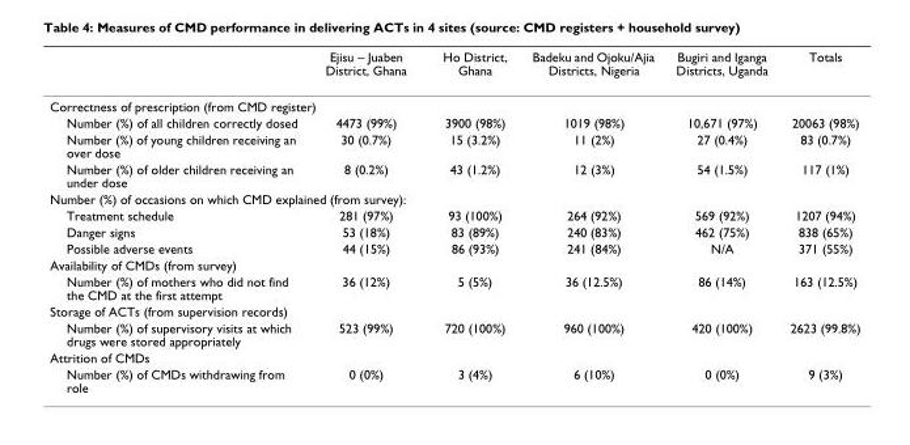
<table><thead><tr><td></td><td>Ejisu – Juaben District, Ghana</td><td>Ho District, Ghana</td><td>Badeku and Ojoku/Ajia Districts, Nigeria</td><td>Bugiri and Iganga Districts, Uganda</td><td>Totals</td></tr></thead><tbody><tr><td colspan="6">Correctness of prescription (from CMD register)</td></tr><tr><td>Number (%) of all children correctly dosed</td><td>4473 (99%)</td><td>3900 (98%)</td><td>1019 (98%)</td><td>10,671 (97%)</td><td>20063 (98%)</td></tr><tr><td>Number (%) of young children receiving an over dose</td><td>30 (0.7%)</td><td>15 (3.2%)</td><td>11 (2%)</td><td>27 (0.4%)</td><td>83 (0.7%)</td></tr><tr><td>Number (%) of older children receiving an under dose</td><td>8 (0.2%)</td><td>43 (1.2%)</td><td>12 (3%)</td><td>54 (1.5%)</td><td>117 (1%)</td></tr><tr><td colspan="6">Number (%) of occasions on which CMD explained (from survey):</td></tr><tr><td>Treatment schedule</td><td>281 (97%)</td><td>93 (100%)</td><td>264 (92%)</td><td>569 (92%)</td><td>1207 (94%)</td></tr><tr><td>Danger signs</td><td>53 (18%)</td><td>83 (89%)</td><td>240 (83%)</td><td>462 (75%)</td><td>838 (65%)</td></tr><tr><td>Possible adverse events</td><td>44 (15%)</td><td>86 (93%)</td><td>241 (84%)</td><td>N/A</td><td>371 (55%)</td></tr><tr><td colspan="6">Availability of CMDs (from survey)</td></tr><tr><td>Number (%) of mothers who did not find the CMD at the first attempt</td><td>36 (12%)</td><td>5 (5%)</td><td>36 (12.5%)</td><td>86 (14%)</td><td>163 (12.5%)</td></tr><tr><td colspan="6">Storage of ACTs (from supervision records)</td></tr><tr><td>Number (%) of supervisory visits at which drugs were stored appropriately</td><td>523 (99%)</td><td>720 (100%)</td><td>960 (100%)</td><td>420 (100%)</td><td>2623 (99.8%)</td></tr><tr><td colspan="6">Attrition of CMDs</td></tr><tr><td>Number (%) of CMDs withdrawing from role</td><td>0 (0%)</td><td>3 (4%)</td><td>6 (10%)</td><td>0 (0%)</td><td>9 (3%)</td></tr></tbody></table>